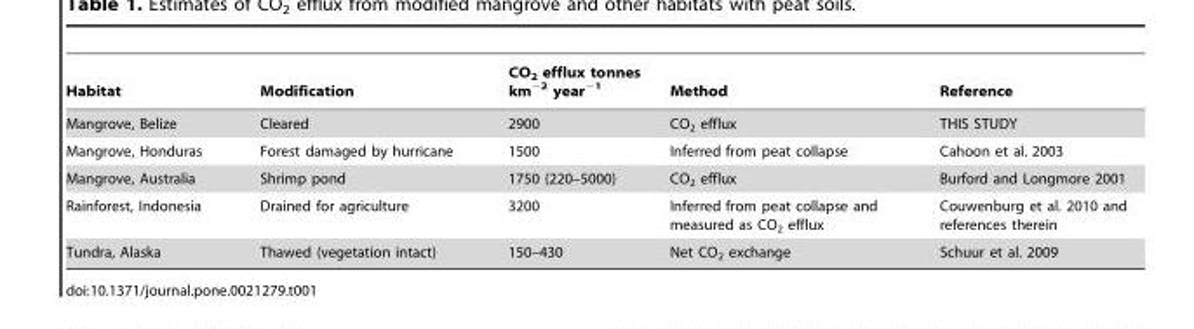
<table><thead><tr><td>Habitat</td><td>Modification</td><td>CO<sub>2</sub> efflux tonnes km<sup>−2</sup> year<sup>−1</sup></td><td>Method</td><td>Reference</td></tr></thead><tbody><tr><td>Mangrove, Belize</td><td>Cleared</td><td>2900</td><td>CO<sub>2</sub> efflux</td><td>THIS STUDY</td></tr><tr><td>Mangrove, Honduras</td><td>Forest damaged by hurricane</td><td>1500</td><td>Inferred from peat collapse</td><td>Cahoon et al. 2003</td></tr><tr><td>Mangrove, Australia</td><td>Shrimp pond</td><td>1750 (220–5000)</td><td>CO<sub>2</sub> efflux</td><td>Burford and Longmore 2001</td></tr><tr><td>Rainforest, Indonesia</td><td>Drained for agriculture</td><td>3200</td><td>Inferred from peat collapse and measured as CO<sub>2</sub> efflux</td><td>Couwenburg et al. 2010 and references therein</td></tr><tr><td>Tundra, Alaska</td><td>Thawed (vegetation intact)</td><td>150–430</td><td>Net CO<sub>2</sub> exchange</td><td>Schuur et al. 2009</td></tr></tbody></table>